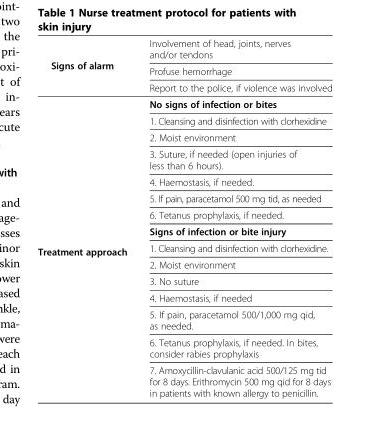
<table><tbody><tr><td rowspan="3">Signs of alarm</td><td>Involvement of head, joints, nerves and/or tendons</td></tr><tr><td>Profuse hemorrhage</td></tr><tr><td>Report to the police, if violence was involved</td></tr><tr><td rowspan="15">Treatment approach</td><td>No signs of infection or bites</td></tr><tr><td>1. Cleansing and disinfection with clorhexidine</td></tr><tr><td>2. Moist environment</td></tr><tr><td>3. Suture, if needed (open injuries of less than 6 hours).</td></tr><tr><td>4. Haemostasis, if needed.</td></tr><tr><td>5. If pain, paracetamol 500 mg tid, as needed</td></tr><tr><td>6. Tetanus prophylaxis, if needed.</td></tr><tr><td>Signs of infection or bite injury</td></tr><tr><td>1. Cleansing and disinfection with clorhexidine.</td></tr><tr><td>2. Moist environment</td></tr><tr><td>3. No suture</td></tr><tr><td>4. Haemostasis, if needed</td></tr><tr><td>5. If pain, paracetamol 500/1,000 mg qid, as needed.</td></tr><tr><td>6. Tetanus prophylaxis, if needed. In bites, consider rabies prophylaxis</td></tr><tr><td>7. Amoxycillin-clavulanic acid 500/125 mg tid for 8 days. Erithromycin 500 mg qid for 8 days in patients with known allergy to penicillin.</td></tr></tbody></table>